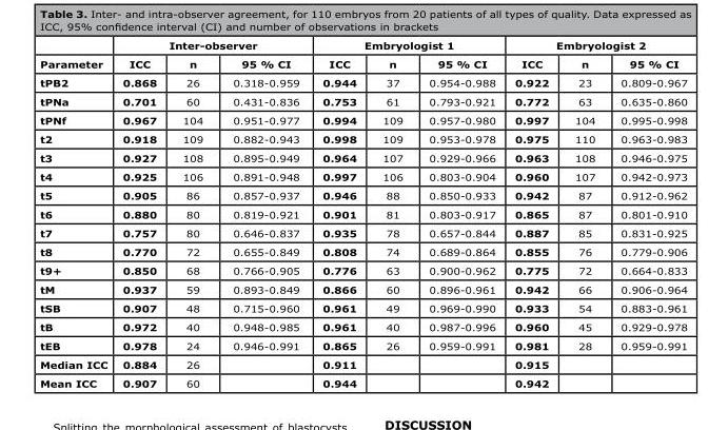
<table><thead><tr><td rowspan="2">Parameter</td><td colspan="3">Inter-observer</td><td colspan="3">Embryologist 1</td><td colspan="3">Embryologist 2</td></tr><tr><td>ICC</td><td>n</td><td>95 % CI</td><td>ICC</td><td>n</td><td>95 % CI</td><td>ICC</td><td>n</td><td>95 % CI</td></tr></thead><tbody><tr><td>tPB2</td><td>0.868</td><td>26</td><td>0.318-0.959</td><td>0.944</td><td>37</td><td>0.954-0.988</td><td>0.922</td><td>23</td><td>0.809-0.967</td></tr><tr><td>tPNa</td><td>0.701</td><td>60</td><td>0.431-0.836</td><td>0.753</td><td>61</td><td>0.793-0.921</td><td>0.772</td><td>63</td><td>0.635-0.860</td></tr><tr><td>tPNf</td><td>0.967</td><td>104</td><td>0.951-0.977</td><td>0.994</td><td>109</td><td>0.957-0.980</td><td>0.997</td><td>104</td><td>0.995-0.998</td></tr><tr><td>t2</td><td>0.918</td><td>109</td><td>0.882-0.943</td><td>0.998</td><td>109</td><td>0.953-0.978</td><td>0.975</td><td>110</td><td>0.963-0.983</td></tr><tr><td>t3</td><td>0.927</td><td>108</td><td>0.895-0.949</td><td>0.964</td><td>107</td><td>0.929-0.966</td><td>0.963</td><td>108</td><td>0.946-0.975</td></tr><tr><td>t4</td><td>0.925</td><td>106</td><td>0.891-0.948</td><td>0.997</td><td>106</td><td>0.803-0.904</td><td>0.960</td><td>107</td><td>0.942-0.973</td></tr><tr><td>t5</td><td>0.905</td><td>86</td><td>0.857-0.937</td><td>0.946</td><td>88</td><td>0.850-0.933</td><td>0.942</td><td>87</td><td>0.912-0.962</td></tr><tr><td>t6</td><td>0.880</td><td>80</td><td>0.819-0.921</td><td>0.901</td><td>81</td><td>0.803-0.917</td><td>0.865</td><td>87</td><td>0.801-0.910</td></tr><tr><td>t7</td><td>0.757</td><td>80</td><td>0.646-0.837</td><td>0.935</td><td>78</td><td>0.657-0.844</td><td>0.887</td><td>85</td><td>0.831-0.925</td></tr><tr><td>t8</td><td>0.770</td><td>72</td><td>0.655-0.849</td><td>0.808</td><td>74</td><td>0.689-0.864</td><td>0.855</td><td>76</td><td>0.779-0.906</td></tr><tr><td>t9+</td><td>0.850</td><td>68</td><td>0.766-0.905</td><td>0.776</td><td>63</td><td>0.900-0.962</td><td>0.775</td><td>72</td><td>0.664-0.833</td></tr><tr><td>tM</td><td>0.937</td><td>59</td><td>0.893-0.849</td><td>0.866</td><td>60</td><td>0.896-0.961</td><td>0.942</td><td>66</td><td>0.906-0.964</td></tr><tr><td>tSB</td><td>0.907</td><td>48</td><td>0.715-0.960</td><td>0.961</td><td>49</td><td>0.969-0.990</td><td>0.933</td><td>54</td><td>0.883-0.961</td></tr><tr><td>tB</td><td>0.972</td><td>40</td><td>0.948-0.985</td><td>0.961</td><td>40</td><td>0.987-0.996</td><td>0.960</td><td>45</td><td>0.929-0.978</td></tr><tr><td>tEB</td><td>0.978</td><td>24</td><td>0.946-0.991</td><td>0.865</td><td>26</td><td>0.959-0.991</td><td>0.981</td><td>28</td><td>0.959-0.991</td></tr><tr><td>Median ICC</td><td>0.884</td><td>26</td><td></td><td>0.911</td><td></td><td></td><td>0.915</td><td></td><td></td></tr><tr><td>Mean ICC</td><td>0.907</td><td>60</td><td></td><td>0.944</td><td></td><td></td><td>0.942</td><td></td><td></td></tr></tbody></table>